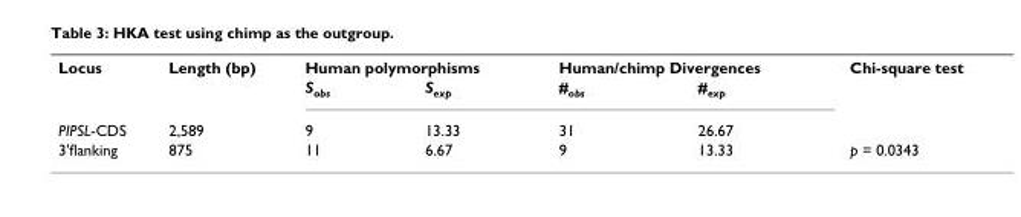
<table><tbody><tr><td rowspan="2">Locus</td><td>Length (bp)</td><td colspan="2">Human polymorphisms</td><td colspan="2">Human/chimp Divergences</td><td>Chi-square test</td></tr><tr><td></td><td>S<sub>obs</sub></td><td>S<sub>exp</sub></td><td>#<sub>obs</sub></td><td>#<sub>exp</sub></td><td></td></tr><tr><td>PIPSL-CDS</td><td>2,589</td><td>9</td><td>13.33</td><td>31</td><td>26.67</td><td></td></tr><tr><td>3&#x27;flanking</td><td>875</td><td>11</td><td>6.67</td><td>9</td><td>13.33</td><td>p = 0.0343</td></tr></tbody></table>